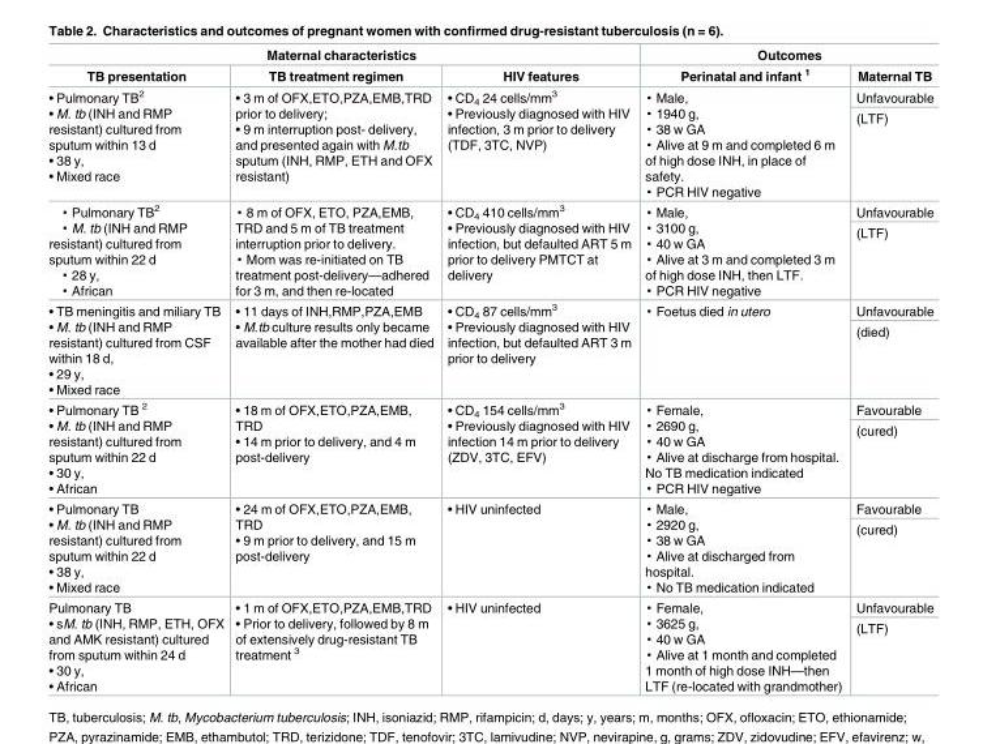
<table><thead><tr><td colspan="3">Maternal characteristics</td><td colspan="2">Outcomes</td></tr><tr><td>TB presentation</td><td>TB treatment regimen</td><td>HIV features</td><td>Perinatal and infant <sup>1</sup></td><td>Maternal TB</td></tr></thead><tbody><tr><td rowspan="2">• Pulmonary TB<sup>2</sup> • M. tb (INH and RMP resistant) cultured from sputum within 13 d • 38 y, • Mixed race</td><td rowspan="2">• 3 m of OFX,ETO,PZA,EMB,TRD prior to delivery; • 9 m interruption post- delivery, and presented again with M.tb sputum (INH, RMP, ETH and OFX resistant)</td><td rowspan="2">• CD<sub>4</sub> 24 cells/mm<sup>3</sup> • Previously diagnosed with HIV infection, 3 m prior to delivery (TDF, 3TC, NVP)</td><td rowspan="2">▪ Male, ▪ 1940 g, ▪ 38 w GA ▪ Alive at 9 m and completed 6 m of high dose INH, in place of safety. ▪ PCR HIV negative</td><td>Unfavourable</td></tr><tr><td>(LTF)</td></tr><tr><td rowspan="2">▪ Pulmonary TB<sup>2</sup> ▪ M. tb (INH and RMP resistant) cultured from sputum within 22 d ▪ 28 y, ▪ African</td><td rowspan="2">▪ 8 m of OFX, ETO, PZA,EMB, TRD and 5 m of TB treatment interruption prior to delivery. ▪ Mom was re-initiated on TB treatment post-delivery—adhered for 3 m, and then re-located</td><td rowspan="2">• CD<sub>4</sub> 410 cells/mm<sup>3</sup> • Previously diagnosed with HIV infection, but defaulted ART 5 m prior to delivery PMTCT at delivery</td><td rowspan="2">▪ Male, ▪ 3100 g, ▪ 40 w GA ▪ Alive at 3 m and completed 3 m of high dose INH, then LTF. ▪ PCR HIV negative</td><td>Unfavourable</td></tr><tr><td>(LTF)</td></tr><tr><td rowspan="2">• TB meningitis and miliary TB • M. tb (INH and RMP resistant) cultured from CSF within 18 d, • 29 y, • Mixed race</td><td rowspan="2">• 11 days of INH,RMP,PZA,EMB • M.tb culture results only became available after the mother had died</td><td rowspan="2">• CD<sub>4</sub> 87 cells/mm<sup>3</sup> • Previously diagnosed with HIV infection, but defaulted ART 3 m prior to delivery</td><td rowspan="2">▪ Foetus died in utero</td><td>Unfavourable</td></tr><tr><td>(died)</td></tr><tr><td rowspan="2">• Pulmonary TB <sup>2</sup> • M. tb (INH and RMP resistant) cultured from sputum within 22 d • 30 y, • African</td><td rowspan="2">• 18 m of OFX,ETO,PZA,EMB, TRD • 14 m prior to delivery, and 4 m post-delivery</td><td rowspan="2">• CD<sub>4</sub> 154 cells/mm<sup>3</sup> • Previously diagnosed with HIV infection 14 m prior to delivery (ZDV, 3TC, EFV)</td><td rowspan="2">▪ Female, ▪ 2690 g, ▪ 40 w GA ▪ Alive at discharge from hospital. No TB medication indicated ▪ PCR HIV negative</td><td>Favourable</td></tr><tr><td>(cured)</td></tr><tr><td rowspan="2">• Pulmonary TB • M. tb (INH and RMP resistant) cultured from sputum within 22 d • 38 y, • Mixed race</td><td rowspan="2">• 24 m of OFX,ETO,PZA,EMB, TRD • 9 m prior to delivery, and 15 m post-delivery</td><td rowspan="2">• HIV uninfected</td><td rowspan="2">▪ Male, ▪ 2920 g, ▪ 38 w GA ▪ Alive at discharged from hospital. ▪ No TB medication indicated</td><td>Favourable</td></tr><tr><td>(cured)</td></tr><tr><td rowspan="2">Pulmonary TB • sM. tb (INH, RMP, ETH, OFX and AMK resistant) cultured from sputum within 24 d • 30 y, • African</td><td rowspan="2">• 1 m of OFX,ETO,PZA,EMB,TRD • Prior to delivery, followed by 8 m of extensively drug-resistant TB treatment <sup>3</sup></td><td rowspan="2">• HIV uninfected</td><td rowspan="2">▪ Female, ▪ 3625 g, ▪ 40 w GA ▪ Alive at 1 month and completed 1 month of high dose INH—then LTF (re-located with grandmother)</td><td>Unfavourable</td></tr><tr><td>(LTF)</td></tr></tbody></table>